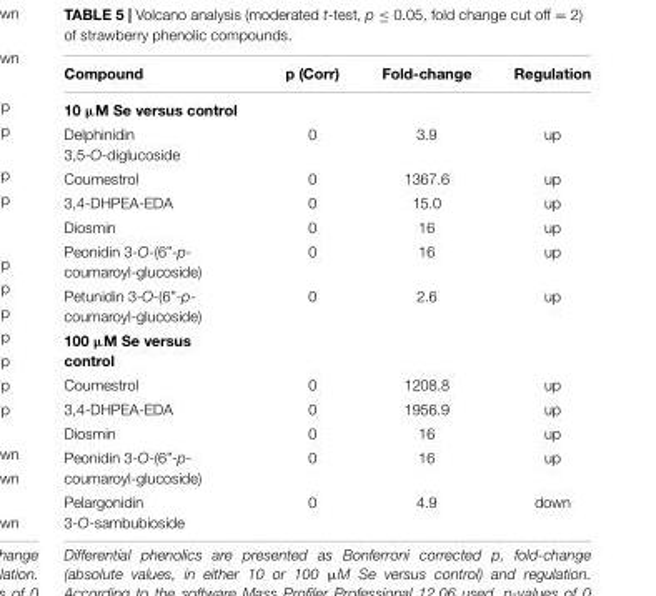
<table><thead><tr><td>Compound</td><td>p (Corr)</td><td>Fold-change</td><td>Regulation</td></tr></thead><tbody><tr><td colspan="4">10 µM Se versus control</td></tr><tr><td>Delphinidin 3,5-O-diglucoside</td><td>0</td><td>3.9</td><td>up</td></tr><tr><td>Coumestrol</td><td>0</td><td>1367.6</td><td>up</td></tr><tr><td>3,4-DHPEA-EDA</td><td>0</td><td>15.0</td><td>up</td></tr><tr><td>Diosmin</td><td>0</td><td>16</td><td>up</td></tr><tr><td>Peonidin 3-O-(6”-p- coumaroyl-glucoside)</td><td>0</td><td>16</td><td>up</td></tr><tr><td>Petunidin 3-O-(6”-p- coumaroyl-glucoside)</td><td>0</td><td>2.6</td><td>up</td></tr><tr><td colspan="4">100 µM Se versus control</td></tr><tr><td>Coumestrol</td><td>0</td><td>1208.8</td><td>up</td></tr><tr><td>3,4-DHPEA-EDA</td><td>0</td><td>1956.9</td><td>up</td></tr><tr><td>Diosmin</td><td>0</td><td>16</td><td>up</td></tr><tr><td>Peonidin 3-O-(6”-p- coumaroyl-glucoside)</td><td>0</td><td>16</td><td>up</td></tr><tr><td>Pelargonidin 3-O-sambubioside</td><td>0</td><td>4.9</td><td>down</td></tr></tbody></table>